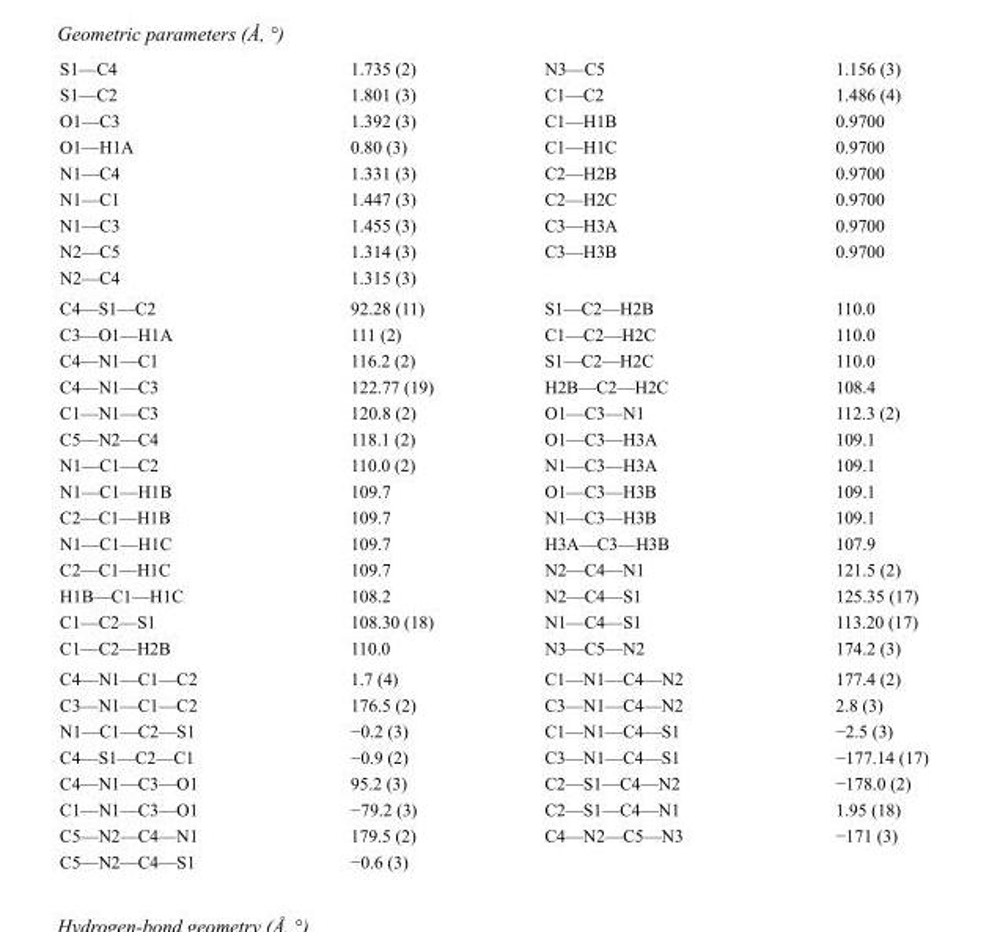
<table><tbody><tr><td>S1—C4</td><td>1.735 (2)</td><td>N3—C5</td><td>1.156 (3)</td></tr><tr><td>S1—C2</td><td>1.801 (3)</td><td>C1—C2</td><td>1.486 (4)</td></tr><tr><td>O1—C3</td><td>1.392 (3)</td><td>C1—H1B</td><td>0.9700</td></tr><tr><td>O1—H1A</td><td>0.80 (3)</td><td>C1—H1C</td><td>0.9700</td></tr><tr><td>N1—C4</td><td>1.331 (3)</td><td>C2—H2B</td><td>0.9700</td></tr><tr><td>N1—C1</td><td>1.447 (3)</td><td>C2—H2C</td><td>0.9700</td></tr><tr><td>N1—C3</td><td>1.455 (3)</td><td>C3—H3A</td><td>0.9700</td></tr><tr><td>N2—C5</td><td>1.314 (3)</td><td>C3—H3B</td><td>0.9700</td></tr><tr><td>N2—C4</td><td>1.315 (3)</td><td></td><td></td></tr><tr><td>C4—S1—C2</td><td>92.28 (11)</td><td>S1—C2—H2B</td><td>110.0</td></tr><tr><td>C3—O1—H1A</td><td>111 (2)</td><td>C1—C2—H2C</td><td>110.0</td></tr><tr><td>C4—N1—C1</td><td>116.2 (2)</td><td>S1—C2—H2C</td><td>110.0</td></tr><tr><td>C4—N1—C3</td><td>122.77 (19)</td><td>H2B—C2—H2C</td><td>108.4</td></tr><tr><td>C1—N1—C3</td><td>120.8 (2)</td><td>O1—C3—N1</td><td>112.3 (2)</td></tr><tr><td>C5—N2—C4</td><td>118.1 (2)</td><td>O1—C3—H3A</td><td>109.1</td></tr><tr><td>N1—C1—C2</td><td>110.0 (2)</td><td>N1—C3—H3A</td><td>109.1</td></tr><tr><td>N1—C1—H1B</td><td>109.7</td><td>O1—C3—H3B</td><td>109.1</td></tr><tr><td>C2—C1—H1B</td><td>109.7</td><td>N1—C3—H3B</td><td>109.1</td></tr><tr><td>N1—C1—H1C</td><td>109.7</td><td>H3A—C3—H3B</td><td>107.9</td></tr><tr><td>C2—C1—H1C</td><td>109.7</td><td>N2—C4—N1</td><td>121.5 (2)</td></tr><tr><td>H1B—C1—H1C</td><td>108.2</td><td>N2—C4—S1</td><td>125.35 (17)</td></tr><tr><td>C1—C2—S1</td><td>108.30 (18)</td><td>N1—C4—S1</td><td>113.20 (17)</td></tr><tr><td>C1—C2—H2B</td><td>110.0</td><td>N3—C5—N2</td><td>174.2 (3)</td></tr><tr><td>C4—N1—C1—C2</td><td>1.7 (4)</td><td>C1—N1—C4—N2</td><td>177.4 (2)</td></tr><tr><td>C3—N1—C1—C2</td><td>176.5 (2)</td><td>C3—N1—C4—N2</td><td>2.8 (3)</td></tr><tr><td>N1—C1—C2—S1</td><td>−0.2 (3)</td><td>C1—N1—C4—S1</td><td>−2.5 (3)</td></tr><tr><td>C4—S1—C2—C1</td><td>−0.9 (2)</td><td>C3—N1—C4—S1</td><td>−177.14 (17)</td></tr><tr><td>C4—N1—C3—O1</td><td>95.2 (3)</td><td>C2—S1—C4—N2</td><td>−178.0 (2)</td></tr><tr><td>C1—N1—C3—O1</td><td>−79.2 (3)</td><td>C2—S1—C4—N1</td><td>1.95 (18)</td></tr><tr><td>C5—N2—C4—N1</td><td>179.5 (2)</td><td>C4—N2—C5—N3</td><td>−171 (3)</td></tr><tr><td>C5—N2—C4—S1</td><td>−0.6 (3)</td><td></td><td></td></tr></tbody></table>